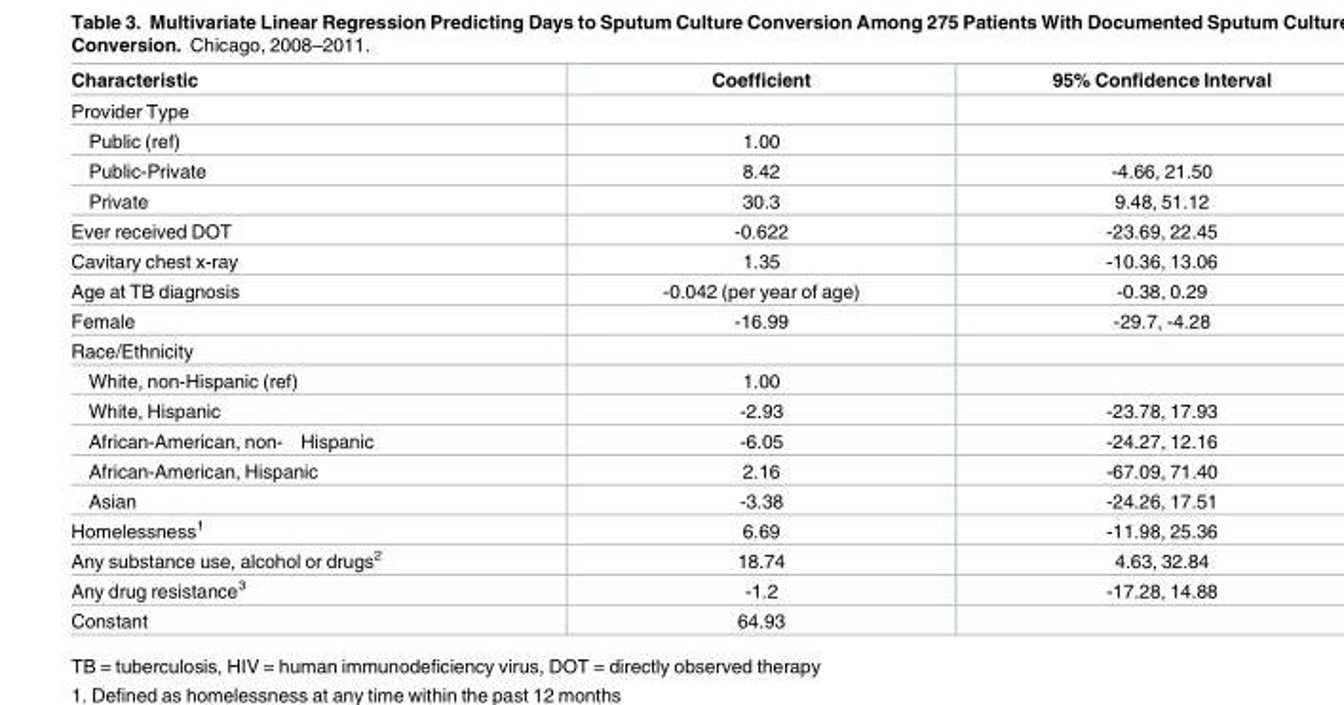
<table><thead><tr><td>Characteristic</td><td>Coefficient</td><td>95% Confidence Interval</td></tr></thead><tbody><tr><td colspan="3">Provider Type</td></tr><tr><td>Public (ref)</td><td>1.00</td><td></td></tr><tr><td>Public-Private</td><td>8.42</td><td>-4.66, 21.50</td></tr><tr><td>Private</td><td>30.3</td><td>9.48, 51.12</td></tr><tr><td>Ever received DOT</td><td>-0.622</td><td>-23.69, 22.45</td></tr><tr><td>Cavitary chest x-ray</td><td>1.35</td><td>-10.36, 13.06</td></tr><tr><td>Age at TB diagnosis</td><td>-0.042 (per year of age)</td><td>-0.38, 0.29</td></tr><tr><td>Female</td><td>-16.99</td><td>-29.7, -4.28</td></tr><tr><td colspan="3">Race/Ethnicity</td></tr><tr><td>White, non-Hispanic (ref)</td><td>1.00</td><td></td></tr><tr><td>White, Hispanic</td><td>-2.93</td><td>-23.78, 17.93</td></tr><tr><td>African-American, non- Hispanic</td><td>-6.05</td><td>-24.27, 12.16</td></tr><tr><td>African-American, Hispanic</td><td>2.16</td><td>-67.09, 71.40</td></tr><tr><td>Asian</td><td>-3.38</td><td>-24.26, 17.51</td></tr><tr><td>Homelessness<sup>1</sup></td><td>6.69</td><td>-11.98, 25.36</td></tr><tr><td>Any substance use, alcohol or drugs<sup>2</sup></td><td>18.74</td><td>4.63, 32.84</td></tr><tr><td>Any drug resistance<sup>3</sup></td><td>-1.2</td><td>-17.28, 14.88</td></tr><tr><td>Constant</td><td>64.93</td><td></td></tr></tbody></table>